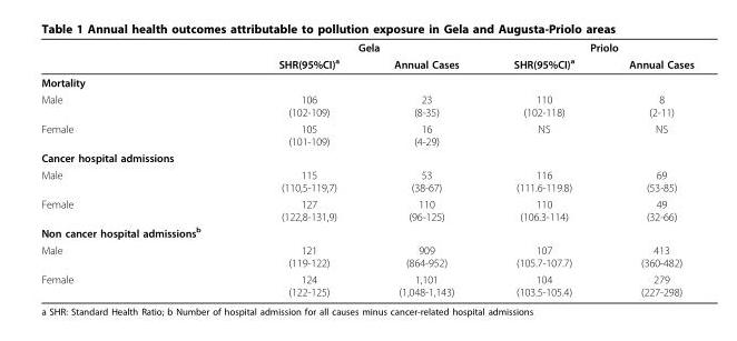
<table><thead><tr><td rowspan="2"></td><td colspan="2">Gela</td><td colspan="2">Priolo</td></tr><tr><td>SHR(95%CI)<sup>a</sup></td><td>Annual Cases</td><td>SHR(95%CI)<sup>a</sup></td><td>Annual Cases</td></tr></thead><tbody><tr><td colspan="5">Mortality</td></tr><tr><td>Male</td><td>106 (102-109)</td><td>23 (8-35)</td><td>110 (102-118)</td><td>8 (2-11)</td></tr><tr><td>Female</td><td>105 (101-109)</td><td>16 (4-29)</td><td>NS</td><td>NS</td></tr><tr><td colspan="5">Cancer hospital admissions</td></tr><tr><td>Male</td><td>115 (110,5-119,7)</td><td>53 (38-67)</td><td>116 (111.6-119.8)</td><td>69 (53-85)</td></tr><tr><td>Female</td><td>127 (122,8-131,9)</td><td>110 (96-125)</td><td>110 (106.3-114)</td><td>49 (32-66)</td></tr><tr><td colspan="5">Non cancer hospital admissions<sup>b</sup></td></tr><tr><td>Male</td><td>121 (119-122)</td><td>909 (864-952)</td><td>107 (105.7-107.7)</td><td>413 (360-482)</td></tr><tr><td>Female</td><td>124 (122-125)</td><td>1,101 (1,048-1,143)</td><td>104 (103.5-105.4)</td><td>279 (227-298)</td></tr></tbody></table>